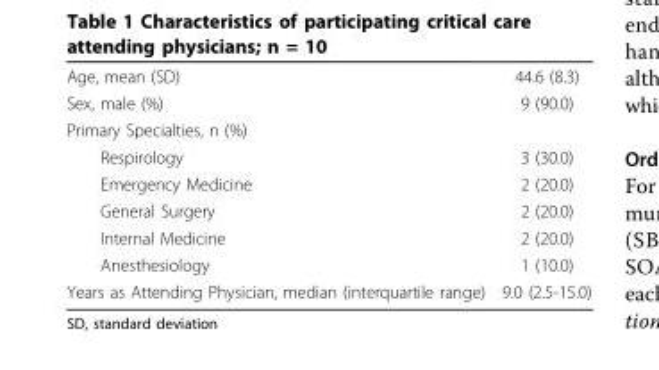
<table><tbody><tr><td>Age, mean (SD)</td><td>44.6 (8.3)</td></tr><tr><td>Sex, male (%)</td><td>9 (90.0)</td></tr><tr><td colspan="2">Primary Specialties, n (%)</td></tr><tr><td>Respirology</td><td>3 (30.0)</td></tr><tr><td>Emergency Medicine</td><td>2 (20.0)</td></tr><tr><td>General Surgery</td><td>2 (20.0)</td></tr><tr><td>Internal Medicine</td><td>2 (20.0)</td></tr><tr><td>Anesthesiology</td><td>1 (10.0)</td></tr><tr><td>Years as Attending Physician, median (interquartile range)</td><td>9.0 (2.5-15.0)</td></tr></tbody></table>